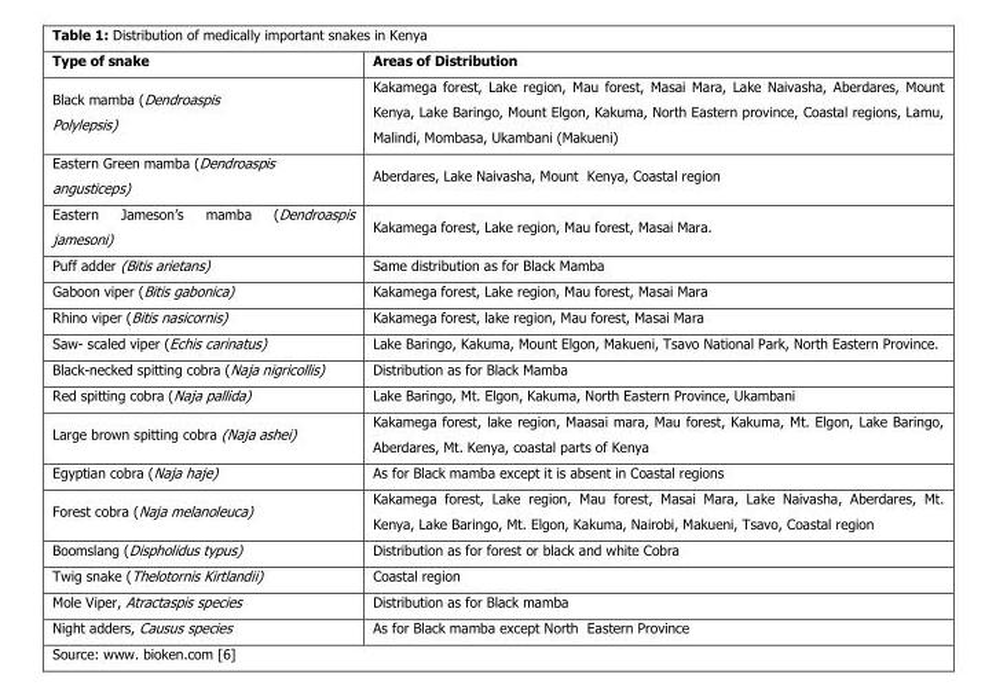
<table><thead><tr><td>Type of snake</td><td>Areas of Distribution</td></tr></thead><tbody><tr><td>Black mamba (Dendroaspis Polylepsis)</td><td>Kakamega forest, Lake region, Mau forest, Masai Mara, Lake Naivasha, Aberdares, Mount Kenya, Lake Baringo, Mount Elgon, Kakuma, North Eastern province, Coastal regions, Lamu, Malindi, Mombasa, Ukambani (Makueni)</td></tr><tr><td>Eastern Green mamba (Dendroaspis angusticeps)</td><td>Aberdares, Lake Naivasha, Mount Kenya, Coastal region</td></tr><tr><td>Eastern Jameson’s mamba (Dendroaspis jamesoni)</td><td>Kakamega forest, Lake region, Mau forest, Masai Mara.</td></tr><tr><td>Puff adder (Bitis arietans)</td><td>Same distribution as for Black Mamba</td></tr><tr><td>Gaboon viper (Bitis gabonica)</td><td>Kakamega forest, Lake region, Mau forest, Masai Mara</td></tr><tr><td>Rhino viper (Bitis nasicornis)</td><td>Kakamega forest, lake region, Mau forest, Masai Mara</td></tr><tr><td>Saw- scaled viper (Echis carinatus)</td><td>Lake Baringo, Kakuma, Mount Elgon, Makueni, Tsavo National Park, North Eastern Province.</td></tr><tr><td>Black-necked spitting cobra (Naja nigricollis)</td><td>Distribution as for Black Mamba</td></tr><tr><td>Red spitting cobra (Naja pallida)</td><td>Lake Baringo, Mt. Elgon, Kakuma, North Eastern Province, Ukambani</td></tr><tr><td>Large brown spitting cobra (Naja ashei)</td><td>Kakamega forest, lake region, Maasai mara, Mau forest, Kakuma, Mt. Elgon, Lake Baringo, Aberdares, Mt. Kenya, coastal parts of Kenya</td></tr><tr><td>Egyptian cobra (Naja haje)</td><td>As for Black mamba except it is absent in Coastal regions</td></tr><tr><td>Forest cobra (Naja melanoleuca)</td><td>Kakamega forest, Lake region, Mau forest, Masai Mara, Lake Naivasha, Aberdares, Mt. Kenya, Lake Baringo, Mt. Elgon, Kakuma, Nairobi, Makueni, Tsavo, Coastal region</td></tr><tr><td>Boomslang (Dispholidus typus)</td><td>Distribution as for forest or black and white Cobra</td></tr><tr><td>Twig snake (Thelotornis Kirtlandii)</td><td>Coastal region</td></tr><tr><td>Mole Viper, Atractaspis species</td><td>Distribution as for Black mamba</td></tr><tr><td>Night adders, Causus species</td><td>As for Black mamba except North Eastern Province</td></tr></tbody></table>